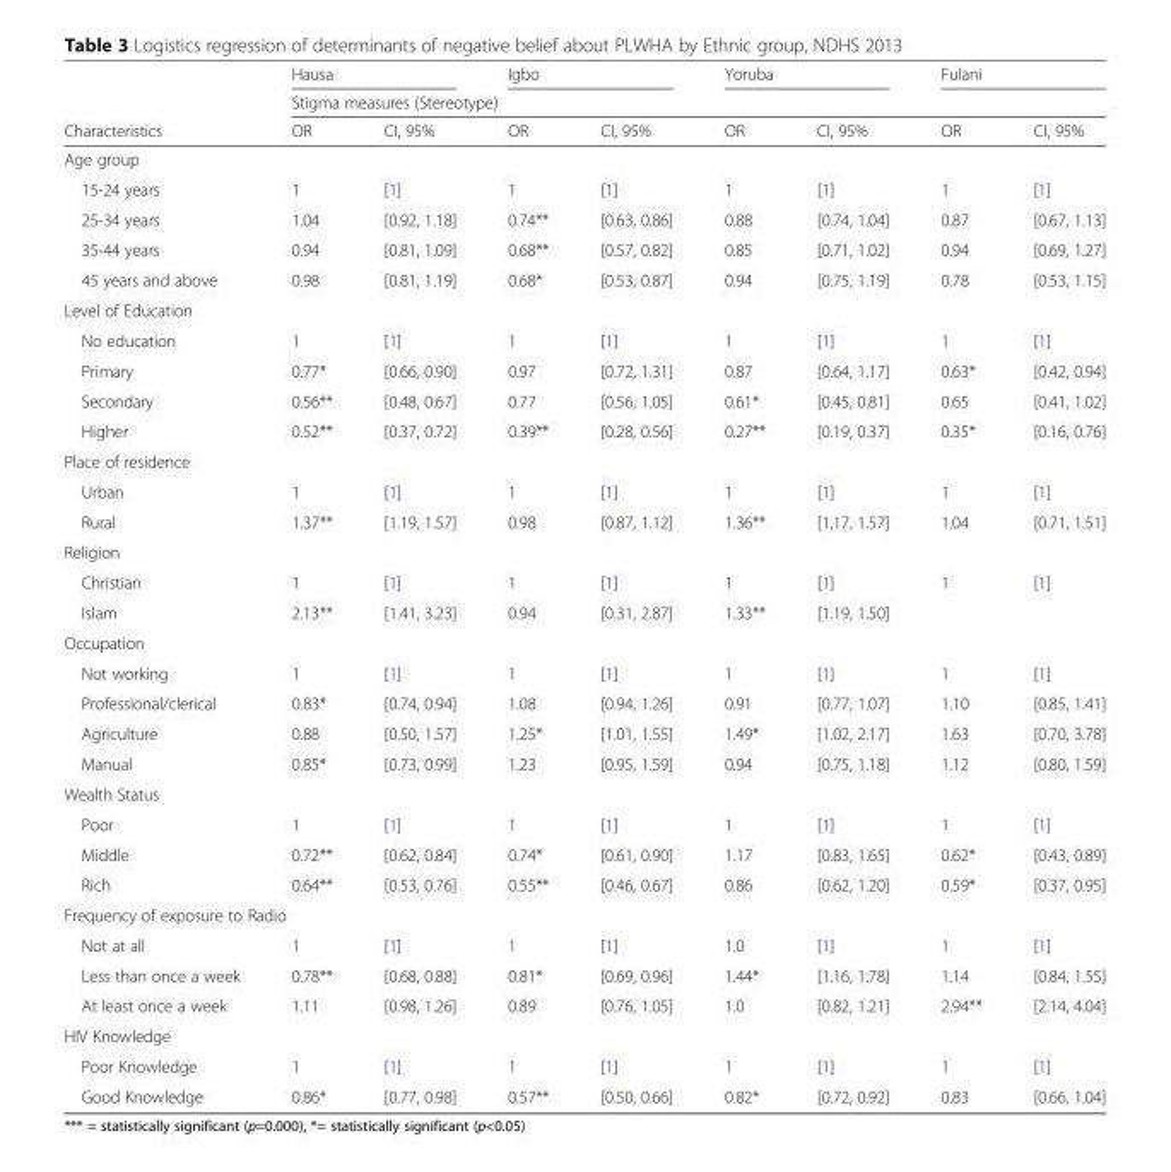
<table><thead><tr><td rowspan="3">Characteristics</td><td colspan="2">Hausa</td><td colspan="2">Igbo</td><td colspan="2">Yoruba</td><td colspan="2">Fulani</td></tr><tr><td colspan="8">Stigma measures (Stereotype)</td></tr><tr><td>OR</td><td>CI, 95%</td><td>OR</td><td>CI, 95%</td><td>OR</td><td>CI, 95%</td><td>OR</td><td>CI, 95%</td></tr></thead><tbody><tr><td colspan="9">Age group</td></tr><tr><td>15-24 years</td><td>1</td><td>[1]</td><td>1</td><td>[1]</td><td>1</td><td>[1]</td><td>1</td><td>[1]</td></tr><tr><td>25-34 years</td><td>1.04</td><td>[0.92, 1.18]</td><td>0.74**</td><td>[0.63, 0.86]</td><td>0.88</td><td>[0.74, 1.04]</td><td>0.87</td><td>[0.67, 1.13]</td></tr><tr><td>35-44 years</td><td>0.94</td><td>[0.81, 1.09]</td><td>0.68**</td><td>[0.57, 0.82]</td><td>0.85</td><td>[0.71, 1.02]</td><td>0.94</td><td>[0.69, 1.27]</td></tr><tr><td>45 years and above</td><td>0.98</td><td>[0.81, 1.19]</td><td>0.68*</td><td>[0.53, 0.87]</td><td>0.94</td><td>[0.75, 1.19]</td><td>0.78</td><td>[0.53, 1.15]</td></tr><tr><td colspan="9">Level of Education</td></tr><tr><td>No education</td><td>1</td><td>[1]</td><td>1</td><td>[1]</td><td>1</td><td>[1]</td><td>1</td><td>[1]</td></tr><tr><td>Primary</td><td>0.77*</td><td>[0.66, 0.90]</td><td>0.97</td><td>[0.72, 1.31]</td><td>0.87</td><td>[0.64, 1.17]</td><td>0.63*</td><td>[0.42, 0.94]</td></tr><tr><td>Secondary</td><td>0.56**</td><td>[0.48, 0.67]</td><td>0.77</td><td>[0.56, 1.05]</td><td>0.61*</td><td>[0.45, 0.81]</td><td>0.65</td><td>[0.41, 1.02]</td></tr><tr><td>Higher</td><td>0.52**</td><td>[0.37, 0.72]</td><td>0.39**</td><td>[0.28, 0.56]</td><td>0.27**</td><td>[0.19, 0.37]</td><td>0.35*</td><td>[0.16, 0.76]</td></tr><tr><td colspan="9">Place of residence</td></tr><tr><td>Urban</td><td>1</td><td>[1]</td><td>1</td><td>[1]</td><td>1</td><td>[1]</td><td>1</td><td>[1]</td></tr><tr><td>Rural</td><td>1.37**</td><td>[1.19, 1.57]</td><td>0.98</td><td>[0.87, 1.12]</td><td>1.36**</td><td>[1,17, 1.57]</td><td>1.04</td><td>[0.71, 1.51]</td></tr><tr><td colspan="9">Religion</td></tr><tr><td>Christian</td><td>1</td><td>[1]</td><td>1</td><td>[1]</td><td>1</td><td>[1]</td><td>1</td><td>[1]</td></tr><tr><td>Islam</td><td>2.13**</td><td>[1.41, 3.23]</td><td>0.94</td><td>[0.31, 2.87]</td><td>1.33**</td><td colspan="2">[1.19, 1.50]</td><td></td></tr><tr><td colspan="9">Occupation</td></tr><tr><td>Not working</td><td>1</td><td>[1]</td><td>1</td><td>[1]</td><td>1</td><td>[1]</td><td>1</td><td>[1]</td></tr><tr><td>Professional/clerical</td><td>0.83*</td><td>[0.74, 0.94]</td><td>1.08</td><td>[0.94, 1.26]</td><td>0.91</td><td>[0.77, 1.07]</td><td>1.10</td><td>[0.85, 1.41]</td></tr><tr><td>Agriculture</td><td>0.88</td><td>[0.50, 1.57]</td><td>1.25*</td><td>[1.01, 1.55]</td><td>1.49*</td><td>[1.02, 2.17]</td><td>1.63</td><td>[0.70, 3.78]</td></tr><tr><td>Manual</td><td>0.85*</td><td>[0.73, 0.99]</td><td>1.23</td><td>[0.95, 1.59]</td><td>0.94</td><td>[0.75, 1.18]</td><td>1.12</td><td>[0.80, 1.59]</td></tr><tr><td colspan="9">Wealth Status</td></tr><tr><td>Poor</td><td>1</td><td>[1]</td><td>1</td><td>[1]</td><td>1</td><td>[1]</td><td>1</td><td>[1]</td></tr><tr><td>Middle</td><td>0.72**</td><td>[0.62, 0.84]</td><td>0.74*</td><td>[0.61, 0.90]</td><td>1.17</td><td>[0.83, 1.65]</td><td>0.62*</td><td>[0.43, 0.89]</td></tr><tr><td>Rich</td><td>0.64**</td><td>[0.53, 0.76]</td><td>0.55**</td><td>[0.46, 0.67]</td><td>0.86</td><td>[0.62, 1.20]</td><td>0.59*</td><td>[0.37, 0.95]</td></tr><tr><td colspan="9">Frequency of exposure to Radio</td></tr><tr><td>Not at all</td><td>1</td><td>[1]</td><td>1</td><td>[1]</td><td>1.0</td><td>[1]</td><td>1</td><td>[1]</td></tr><tr><td>Less than once a week</td><td>0.78**</td><td>[0.68, 0.88]</td><td>0.81*</td><td>[0.69, 0.96]</td><td>1.44*</td><td>[1.16, 1.78]</td><td>1.14</td><td>[0.84, 1.55]</td></tr><tr><td>At least once a week</td><td>1.11</td><td>[0.98, 1.26]</td><td>0.89</td><td>[0.76, 1.05]</td><td>1.0</td><td>[0.82, 1.21]</td><td>2.94**</td><td>[2.14, 4.04]</td></tr><tr><td colspan="9">HIV Knowledge</td></tr><tr><td>Poor Knowledge</td><td>1</td><td>[1]</td><td>1</td><td>[1]</td><td>1</td><td>[1]</td><td>1</td><td>[1]</td></tr><tr><td>Good Knowledge</td><td>0.86*</td><td>[0.77, 0.98]</td><td>0.57**</td><td>[0.50, 0.66]</td><td>0.82*</td><td>[0.72, 0.92]</td><td>0.83</td><td>[0.66, 1.04]</td></tr></tbody></table>